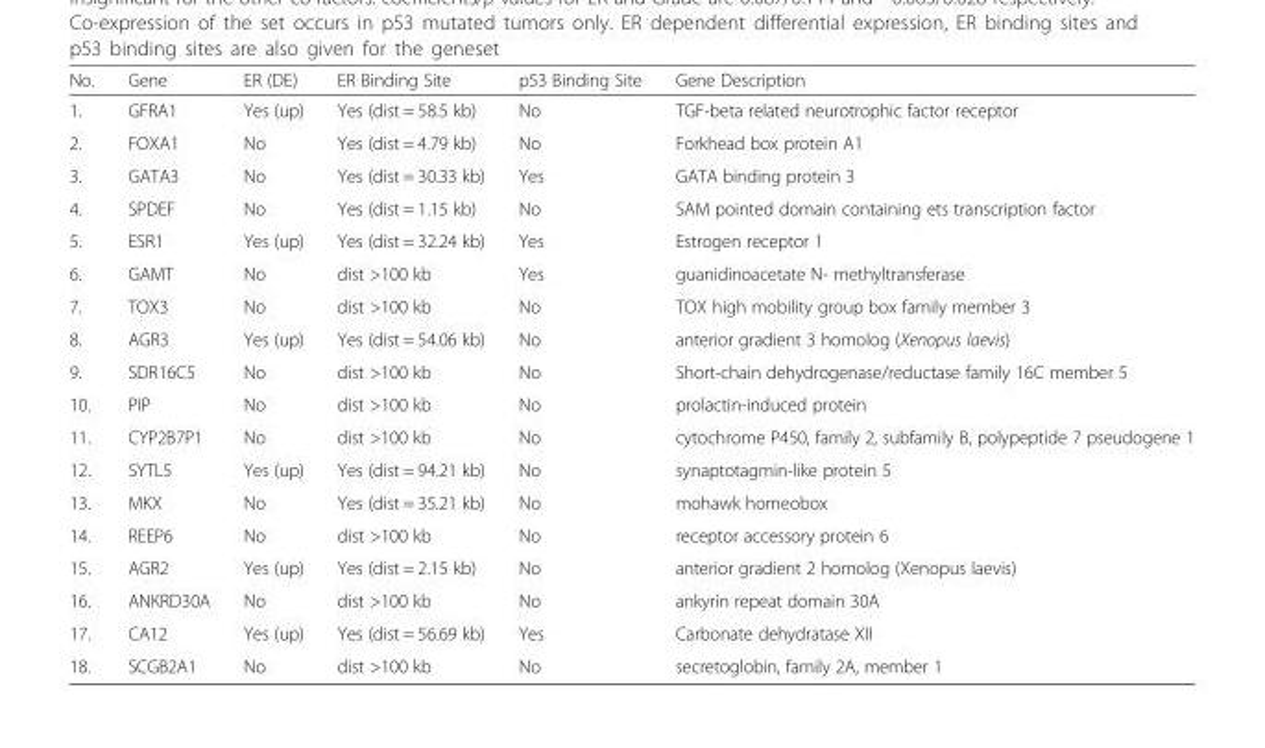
<table><thead><tr><td>No.</td><td>Gene</td><td>ER (DE)</td><td>ER Binding Site</td><td>p53 Binding Site</td><td>Gene Description</td></tr></thead><tbody><tr><td>1.</td><td>GFRA1</td><td>Yes (up)</td><td>Yes (dist = 58.5 kb)</td><td>No</td><td>TGF-beta related neurotrophic factor receptor</td></tr><tr><td>2.</td><td>FOXA1</td><td>No</td><td>Yes (dist = 4.79 kb)</td><td>No</td><td>Forkhead box protein A1</td></tr><tr><td>3.</td><td>GATA3</td><td>No</td><td>Yes (dist = 30.33 kb)</td><td>Yes</td><td>GATA binding protein 3</td></tr><tr><td>4.</td><td>SPDEF</td><td>No</td><td>Yes (dist = 1.15 kb)</td><td>No</td><td>SAM pointed domain containing ets transcription factor</td></tr><tr><td>5.</td><td>ESR1</td><td>Yes (up)</td><td>Yes (dist = 32.24 kb)</td><td>Yes</td><td>Estrogen receptor 1</td></tr><tr><td>6.</td><td>GAMT</td><td>No</td><td>dist &gt;100 kb</td><td>Yes</td><td>guanidinoacetate N- methyltransferase</td></tr><tr><td>7.</td><td>TOX3</td><td>No</td><td>dist &gt;100 kb</td><td>No</td><td>TOX high mobility group box family member 3</td></tr><tr><td>8.</td><td>AGR3</td><td>Yes (up)</td><td>Yes (dist = 54.06 kb)</td><td>No</td><td>anterior gradient 3 homolog (Xenopus laevis)</td></tr><tr><td>9.</td><td>SDR16C5</td><td>No</td><td>dist &gt;100 kb</td><td>No</td><td>Short-chain dehydrogenase/reductase family 16C member 5</td></tr><tr><td>10.</td><td>PIP</td><td>No</td><td>dist &gt;100 kb</td><td>No</td><td>prolactin-induced protein</td></tr><tr><td>11.</td><td>CYP2B7P1</td><td>No</td><td>dist &gt;100 kb</td><td>No</td><td>cytochrome P450, family 2, subfamily B, polypeptide 7 pseudogene 1</td></tr><tr><td>12.</td><td>SYTL5</td><td>Yes (up)</td><td>Yes (dist = 94.21 kb)</td><td>No</td><td>synaptotagmin-like protein 5</td></tr><tr><td>13.</td><td>MKX</td><td>No</td><td>Yes (dist = 35.21 kb)</td><td>No</td><td>mohawk homeobox</td></tr><tr><td>14.</td><td>REEP6</td><td>No</td><td>dist &gt;100 kb</td><td>No</td><td>receptor accessory protein 6</td></tr><tr><td>15.</td><td>AGR2</td><td>Yes (up)</td><td>Yes (dist = 2.15 kb)</td><td>No</td><td>anterior gradient 2 homolog (Xenopus laevis)</td></tr><tr><td>16.</td><td>ANKRD30A</td><td>No</td><td>dist &gt;100 kb</td><td>No</td><td>ankyrin repeat domain 30A</td></tr><tr><td>17.</td><td>CA12</td><td>Yes (up)</td><td>Yes (dist = 56.69 kb)</td><td>Yes</td><td>Carbonate dehydratase XII</td></tr><tr><td>18.</td><td>SCGB2A1</td><td>No</td><td>dist &gt;100 kb</td><td>No</td><td>secretoglobin, family 2A, member 1</td></tr></tbody></table>